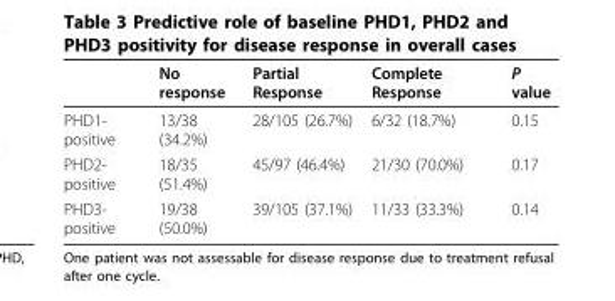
<table><thead><tr><td></td><td>No response</td><td>Partial Response</td><td>Complete Response</td><td>P value</td></tr></thead><tbody><tr><td>PHD1- positive</td><td>13/38 (34.2%)</td><td>28/105 (26.7%)</td><td>6/32 (18.7%)</td><td>0.15</td></tr><tr><td>PHD2- positive</td><td>18/35 (51.4%)</td><td>45/97 (46.4%)</td><td>21/30 (70.0%)</td><td>0.17</td></tr><tr><td>PHD3- positive</td><td>19/38 (50.0%)</td><td>39/105 (37.1%)</td><td>11/33 (33.3%)</td><td>0.14</td></tr></tbody></table>